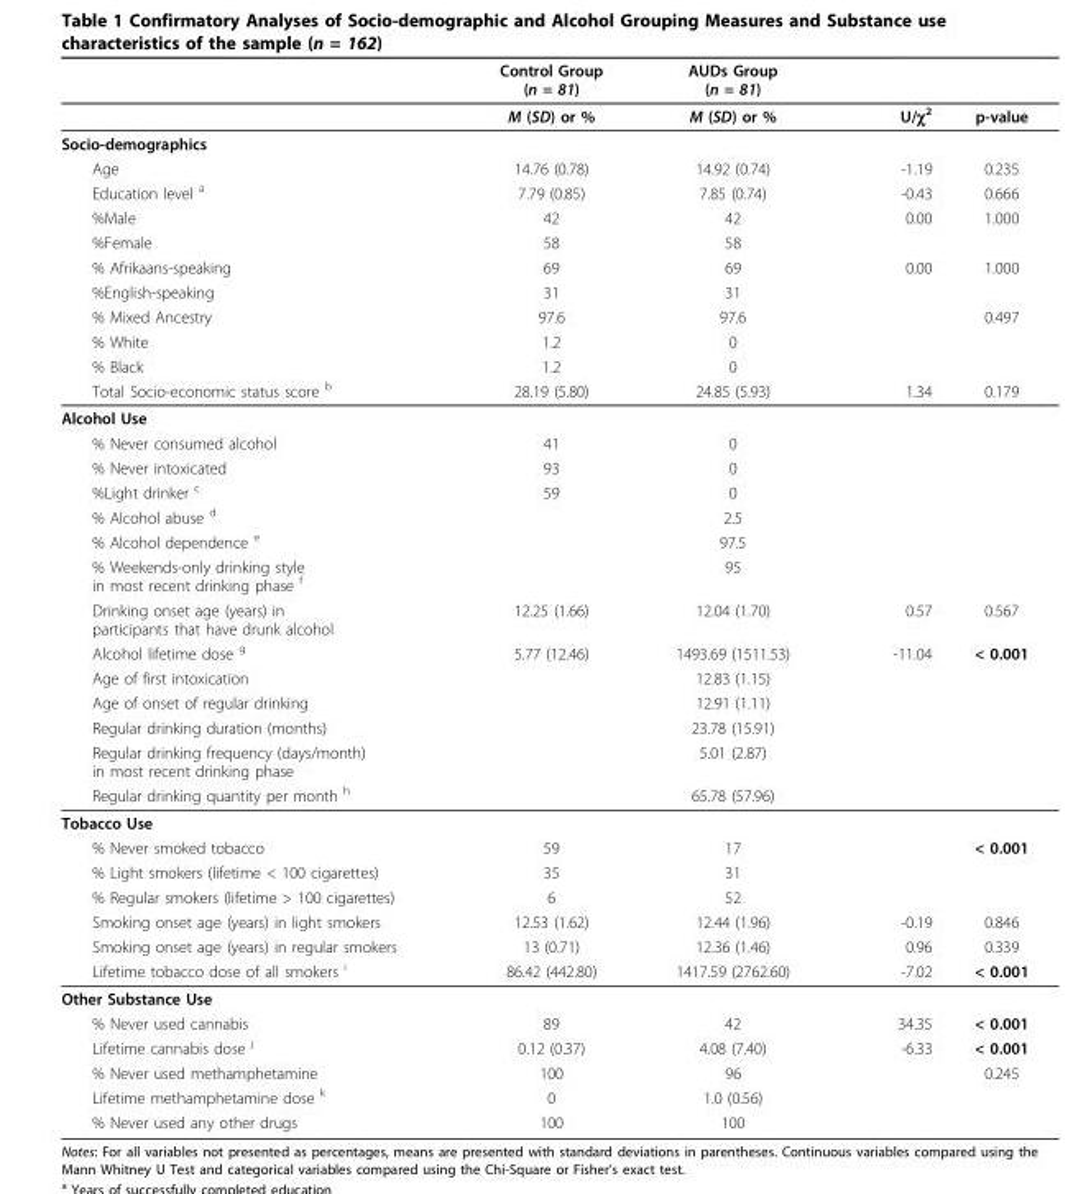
<table><thead><tr><td></td><td>Control Group (n = 81)</td><td>AUDs Group (n = 81)</td><td></td><td></td></tr></thead><tbody><tr><td></td><td>M (SD) or %</td><td>M (SD) or %</td><td>U/χ<sup>2</sup></td><td>p-value</td></tr><tr><td colspan="5">Socio-demographics</td></tr><tr><td>Age</td><td>14.76 (0.78)</td><td>14.92 (0.74)</td><td>-1.19</td><td>0.235</td></tr><tr><td>Education level <sup>a</sup></td><td>7.79 (0.85)</td><td>7.85 (0.74)</td><td>-0.43</td><td>0.666</td></tr><tr><td>%Male</td><td>42</td><td>42</td><td>0.00</td><td>1.000</td></tr><tr><td>%Female</td><td>58</td><td>58</td><td></td><td></td></tr><tr><td>% Afrikaans-speaking</td><td>69</td><td>69</td><td>0.00</td><td>1.000</td></tr><tr><td>%English-speaking</td><td>31</td><td>31</td><td></td><td></td></tr><tr><td>% Mixed Ancestry</td><td>97.6</td><td>97.6</td><td></td><td>0.497</td></tr><tr><td>% White</td><td>1.2</td><td>0</td><td></td><td></td></tr><tr><td>% Black</td><td>1.2</td><td>0</td><td></td><td></td></tr><tr><td>Total Socio-economic status score <sup>b</sup></td><td>28.19 (5.80)</td><td>24.85 (5.93)</td><td>1.34</td><td>0.179</td></tr><tr><td colspan="5">Alcohol Use</td></tr><tr><td>% Never consumed alcohol</td><td>41</td><td>0</td><td></td><td></td></tr><tr><td>% Never intoxicated</td><td>93</td><td>0</td><td></td><td></td></tr><tr><td>%Light drinker <sup>c</sup></td><td>59</td><td>0</td><td></td><td></td></tr><tr><td>% Alcohol abuse <sup>d</sup></td><td></td><td>2.5</td><td></td><td></td></tr><tr><td>% Alcohol dependence <sup>e</sup></td><td></td><td>97.5</td><td></td><td></td></tr><tr><td>% Weekends-only drinking style in most recent drinking phase <sup>f</sup></td><td></td><td>95</td><td></td><td></td></tr><tr><td>Drinking onset age (years) in participants that have drunk alcohol</td><td>12.25 (1.66)</td><td>12.04 (1.70)</td><td>0.57</td><td>0.567</td></tr><tr><td>Alcohol lifetime dose <sup>g</sup></td><td>5.77 (12.46)</td><td>1493.69 (1511.53)</td><td>-11.04</td><td>&lt; 0.001</td></tr><tr><td>Age of first intoxication</td><td></td><td>12.83 (1.15)</td><td></td><td></td></tr><tr><td>Age of onset of regular drinking</td><td></td><td>12.91 (1.11)</td><td></td><td></td></tr><tr><td>Regular drinking duration (months)</td><td></td><td>23.78 (15.91)</td><td></td><td></td></tr><tr><td>Regular drinking frequency (days/month) in most recent drinking phase</td><td></td><td>5.01 (2.87)</td><td></td><td></td></tr><tr><td>Regular drinking quantity per month <sup>h</sup></td><td></td><td>65.78 (57.96)</td><td></td><td></td></tr><tr><td colspan="5">Tobacco Use</td></tr><tr><td>% Never smoked tobacco</td><td>59</td><td>17</td><td></td><td>&lt; 0.001</td></tr><tr><td>% Light smokers (lifetime &lt; 100 cigarettes)</td><td>35</td><td>31</td><td></td><td></td></tr><tr><td>% Regular smokers (lifetime &gt; 100 cigarettes)</td><td>6</td><td>52</td><td></td><td></td></tr><tr><td>Smoking onset age (years) in light smokers</td><td>12.53 (1.62)</td><td>12.44 (1.96)</td><td>-0.19</td><td>0.846</td></tr><tr><td>Smoking onset age (years) in regular smokers</td><td>13 (0.71)</td><td>12.36 (1.46)</td><td>0.96</td><td>0.339</td></tr><tr><td>Lifetime tobacco dose of all smokers <sup>i</sup></td><td>86.42 (442.80)</td><td>1417.59 (2762.60)</td><td>-7.02</td><td>&lt; 0.001</td></tr><tr><td colspan="5">Other Substance Use</td></tr><tr><td>% Never used cannabis</td><td>89</td><td>42</td><td>34.35</td><td>&lt; 0.001</td></tr><tr><td>Lifetime cannabis dose <sup>j</sup></td><td>0.12 (0.37)</td><td>4.08 (7.40)</td><td>-6.33</td><td>&lt; 0.001</td></tr><tr><td>% Never used methamphetamine</td><td>100</td><td>96</td><td></td><td>0.245</td></tr><tr><td>Lifetime methamphetamine dose <sup>k</sup></td><td>0</td><td>1.0 (0.56)</td><td></td><td></td></tr><tr><td>% Never used any other drugs</td><td>100</td><td>100</td><td></td><td></td></tr></tbody></table>